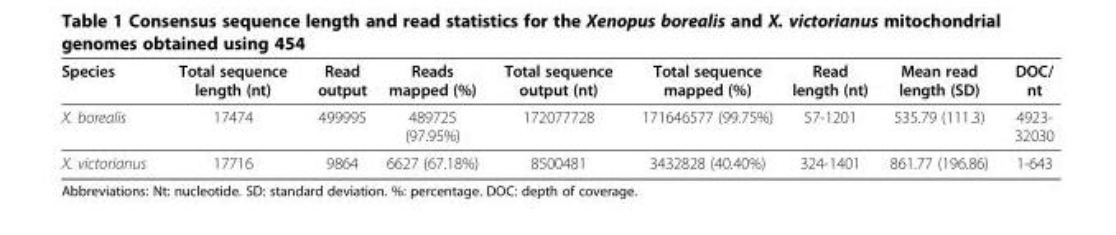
<table><thead><tr><td>Species</td><td>Total sequence length (nt)</td><td>Read output</td><td>Reads mapped (%)</td><td>Total sequence output (nt)</td><td>Total sequence mapped (%)</td><td>Read length (nt)</td><td>Mean read length (SD)</td><td>DOC/ nt</td></tr></thead><tbody><tr><td>X. borealis</td><td>17474</td><td>499995</td><td>489725 (97.95%)</td><td>172077728</td><td>171646577 (99.75%)</td><td>57-1201</td><td>535.79 (111.3)</td><td>4923- 32030</td></tr><tr><td>X. victorianus</td><td>17716</td><td>9864</td><td>6627 (67.18%)</td><td>8500481</td><td>3432828 (40.40%)</td><td>324-1401</td><td>861.77 (196.86)</td><td>1-643</td></tr></tbody></table>